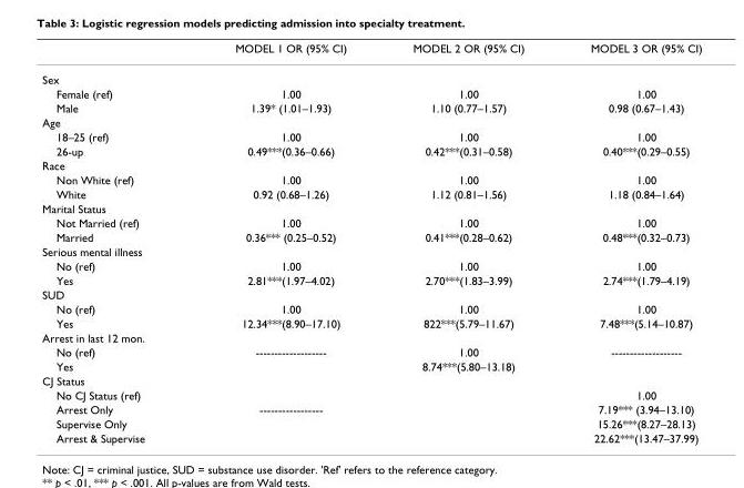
<table><thead><tr><td></td><td>MODEL 1 OR (95% CI)</td><td>MODEL 2 OR (95% CI)</td><td>MODEL 3 OR (95% CI)</td></tr></thead><tbody><tr><td colspan="4">Sex</td></tr><tr><td>Female (ref)</td><td>1.00</td><td>1.00</td><td>1.00</td></tr><tr><td>Male</td><td>1.39* (1.01–1.93)</td><td>1.10 (0.77–1.57)</td><td>0.98 (0.67–1.43)</td></tr><tr><td colspan="4">Age</td></tr><tr><td>18–25 (ref)</td><td>1.00</td><td>1.00</td><td>1.00</td></tr><tr><td>26-up</td><td>0.49***(0.36–0.66)</td><td>0.42***(0.31–0.58)</td><td>0.40***(0.29–0.55)</td></tr><tr><td colspan="4">Race</td></tr><tr><td>Non White (ref)</td><td>1.00</td><td>1.00</td><td>1.00</td></tr><tr><td>White</td><td>0.92 (0.68–1.26)</td><td>1.12 (0.81–1.56)</td><td>1.18 (0.84–1.64)</td></tr><tr><td colspan="4">Marital Status</td></tr><tr><td>Not Married (ref)</td><td>1.00</td><td>1.00</td><td>1.00</td></tr><tr><td>Married</td><td>0.36*** (0.25–0.52)</td><td>0.41***(0.28–0.62)</td><td>0.48***(0.32–0.73)</td></tr><tr><td colspan="4">Serious mental illness</td></tr><tr><td>No (ref)</td><td>1.00</td><td>1.00</td><td>1.00</td></tr><tr><td>Yes</td><td>2.81***(1.97–4.02)</td><td>2.70***(1.83–3.99)</td><td>2.74***(1.79–4.19)</td></tr><tr><td colspan="4">SUD</td></tr><tr><td>No (ref)</td><td>1.00</td><td>1.00</td><td>1.00</td></tr><tr><td>Yes</td><td>12.34***(8.90–17.10)</td><td>822***(5.79–11.67)</td><td>7.48***(5.14–10.87)</td></tr><tr><td colspan="4">Arrest in last 12 mon.</td></tr><tr><td>No (ref)</td><td>-------------------</td><td>1.00</td><td>-------------------</td></tr><tr><td>Yes</td><td></td><td>8.74***(5.80–13.18)</td><td></td></tr><tr><td colspan="4">CJ Status</td></tr><tr><td>No CJ Status (ref)</td><td></td><td></td><td>1.00</td></tr><tr><td>Arrest Only</td><td>-----------------</td><td></td><td>7.19*** (3.94–13.10)</td></tr><tr><td>Supervise Only</td><td></td><td></td><td>15.26***(8.27–28.13)</td></tr><tr><td>Arrest &amp; Supervise</td><td></td><td></td><td>22.62***(13.47–37.99)</td></tr></tbody></table>